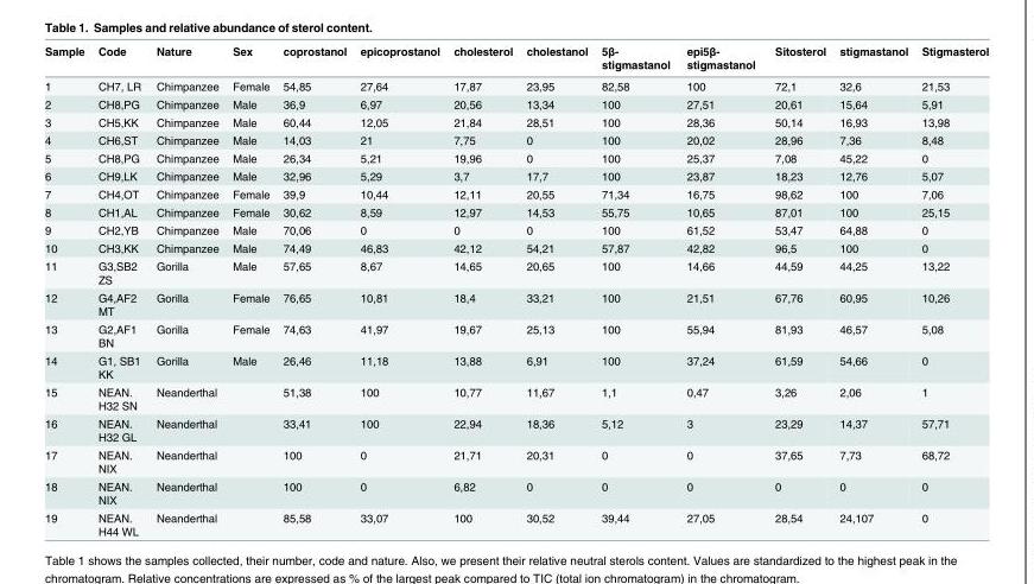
<table><thead><tr><td>Sample</td><td>Code</td><td>Nature</td><td>Sex</td><td>coprostanol</td><td>epicoprostanol</td><td>cholesterol</td><td>cholestanol</td><td>5β- stigmastanol</td><td>epi5β- stigmastanol</td><td>Sitosterol</td><td>stigmastanol</td><td>Stigmasterol</td></tr></thead><tbody><tr><td>1</td><td>CH7, LR</td><td>Chimpanzee</td><td>Female</td><td>54,85</td><td>27,64</td><td>17,87</td><td>23,95</td><td>82,58</td><td>100</td><td>72,1</td><td>32,6</td><td>21,53</td></tr><tr><td>2</td><td>CH8,PG</td><td>Chimpanzee</td><td>Male</td><td>36,9</td><td>6,97</td><td>20,56</td><td>13,34</td><td>100</td><td>27,51</td><td>20,61</td><td>15,64</td><td>5,91</td></tr><tr><td>3</td><td>CH5,KK</td><td>Chimpanzee</td><td>Male</td><td>60,44</td><td>12,05</td><td>21,84</td><td>28,51</td><td>100</td><td>28,36</td><td>50,14</td><td>16,93</td><td>13,98</td></tr><tr><td>4</td><td>CH6,ST</td><td>Chimpanzee</td><td>Male</td><td>14,03</td><td>21</td><td>7,75</td><td>0</td><td>100</td><td>20,02</td><td>28,96</td><td>7,36</td><td>8,48</td></tr><tr><td>5</td><td>CH8,PG</td><td>Chimpanzee</td><td>Male</td><td>26,34</td><td>5,21</td><td>19,96</td><td>0</td><td>100</td><td>25,37</td><td>7,08</td><td>45,22</td><td>0</td></tr><tr><td>6</td><td>CH9,LK</td><td>Chimpanzee</td><td>Male</td><td>32,96</td><td>5,29</td><td>3,7</td><td>17,7</td><td>100</td><td>23,87</td><td>18,23</td><td>12,76</td><td>5,07</td></tr><tr><td>7</td><td>CH4,OT</td><td>Chimpanzee</td><td>Female</td><td>39,9</td><td>10,44</td><td>12,11</td><td>20,55</td><td>71,34</td><td>16,75</td><td>98,62</td><td>100</td><td>7,06</td></tr><tr><td>8</td><td>CH1,AL</td><td>Chimpanzee</td><td>Female</td><td>30,62</td><td>8,59</td><td>12,97</td><td>14,53</td><td>55,75</td><td>10,65</td><td>87,01</td><td>100</td><td>25,15</td></tr><tr><td>9</td><td>CH2,YB</td><td>Chimpanzee</td><td>Male</td><td>70,06</td><td>0</td><td>0</td><td>0</td><td>100</td><td>61,52</td><td>53,47</td><td>64,88</td><td>0</td></tr><tr><td>10</td><td>CH3,KK</td><td>Chimpanzee</td><td>Male</td><td>74,49</td><td>46,83</td><td>42,12</td><td>54,21</td><td>57,87</td><td>42,82</td><td>96,5</td><td>100</td><td>0</td></tr><tr><td>11</td><td>G3,SB2 ZS</td><td>Gorilla</td><td>Male</td><td>57,65</td><td>8,67</td><td>14,65</td><td>20,65</td><td>100</td><td>14,66</td><td>44,59</td><td>44,25</td><td>13,22</td></tr><tr><td>12</td><td>G4,AF2 MT</td><td>Gorilla</td><td>Female</td><td>76,65</td><td>10,81</td><td>18,4</td><td>33,21</td><td>100</td><td>21,51</td><td>67,76</td><td>60,95</td><td>10,26</td></tr><tr><td>13</td><td>G2,AF1 BN</td><td>Gorilla</td><td>Female</td><td>74,63</td><td>41,97</td><td>19,67</td><td>25,13</td><td>100</td><td>55,94</td><td>81,93</td><td>46,57</td><td>5,08</td></tr><tr><td>14</td><td>G1, SB1 KK</td><td>Gorilla</td><td>Male</td><td>26,46</td><td>11,18</td><td>13,88</td><td>6,91</td><td>100</td><td>37,24</td><td>61,59</td><td>54,66</td><td>0</td></tr><tr><td>15</td><td>NEAN. H32 SN</td><td>Neanderthal</td><td></td><td>51,38</td><td>100</td><td>10,77</td><td>11,67</td><td>1,1</td><td>0,47</td><td>3,26</td><td>2,06</td><td>1</td></tr><tr><td>16</td><td>NEAN. H32 GL</td><td>Neanderthal</td><td></td><td>33,41</td><td>100</td><td>22,94</td><td>18,36</td><td>5,12</td><td>3</td><td>23,29</td><td>14,37</td><td>57,71</td></tr><tr><td>17</td><td>NEAN. NIX</td><td>Neanderthal</td><td></td><td>100</td><td>0</td><td>21,71</td><td>20,31</td><td>0</td><td>0</td><td>37,65</td><td>7,73</td><td>68,72</td></tr><tr><td>18</td><td>NEAN. NIX</td><td>Neanderthal</td><td></td><td>100</td><td>0</td><td>6,82</td><td>0</td><td>0</td><td>0</td><td>0</td><td>0</td><td>0</td></tr><tr><td>19</td><td>NEAN. H44 WL</td><td>Neanderthal</td><td></td><td>85,58</td><td>33,07</td><td>100</td><td>30,52</td><td>39,44</td><td>27,05</td><td>28,54</td><td>24,107</td><td>0</td></tr></tbody></table>